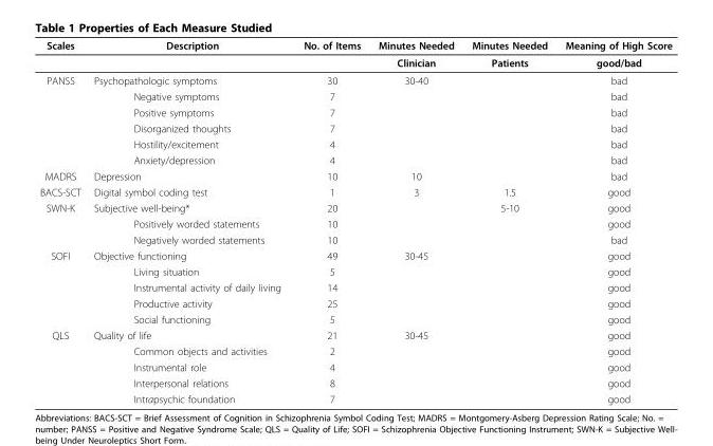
<table><thead><tr><td>Scales</td><td>Description</td><td>No. of Items</td><td>Minutes Needed</td><td>Minutes Needed</td><td>Meaning of High Score</td></tr></thead><tbody><tr><td></td><td></td><td></td><td>Clinician</td><td>Patients</td><td>good/bad</td></tr><tr><td rowspan="6">PANSS</td><td>Psychopathologic symptoms</td><td>30</td><td>30-40</td><td></td><td>bad</td></tr><tr><td>Negative symptoms</td><td>7</td><td></td><td></td><td>bad</td></tr><tr><td>Positive symptoms</td><td>7</td><td></td><td></td><td>bad</td></tr><tr><td>Disorganized thoughts</td><td>7</td><td></td><td></td><td>bad</td></tr><tr><td>Hostility/excitement</td><td>4</td><td></td><td></td><td>bad</td></tr><tr><td>Anxiety/depression</td><td>4</td><td></td><td></td><td>bad</td></tr><tr><td>MADRS</td><td>Depression</td><td>10</td><td>10</td><td></td><td>bad</td></tr><tr><td>BACS-SCT</td><td>Digital symbol coding test</td><td>1</td><td>3</td><td>1.5</td><td>good</td></tr><tr><td rowspan="3">SWN-K</td><td>Subjective well-being*</td><td>20</td><td></td><td>5-10</td><td>good</td></tr><tr><td>Positively worded statements</td><td>10</td><td></td><td></td><td>good</td></tr><tr><td>Negatively worded statements</td><td>10</td><td></td><td></td><td>bad</td></tr><tr><td rowspan="5">SOFI</td><td>Objective functioning</td><td>49</td><td>30-45</td><td></td><td>good</td></tr><tr><td>Living situation</td><td>5</td><td></td><td></td><td>good</td></tr><tr><td>Instrumental activity of daily living</td><td>14</td><td></td><td></td><td>good</td></tr><tr><td>Productive activity</td><td>25</td><td></td><td></td><td>good</td></tr><tr><td>Social functioning</td><td>5</td><td></td><td></td><td>good</td></tr><tr><td rowspan="5">QLS</td><td>Quality of life</td><td>21</td><td>30-45</td><td></td><td>good</td></tr><tr><td>Common objects and activities</td><td>2</td><td></td><td></td><td>good</td></tr><tr><td>Instrumental role</td><td>4</td><td></td><td></td><td>good</td></tr><tr><td>Interpersonal relations</td><td>8</td><td></td><td></td><td>good</td></tr><tr><td>Intrapsychic foundation</td><td>7</td><td></td><td></td><td>good</td></tr></tbody></table>